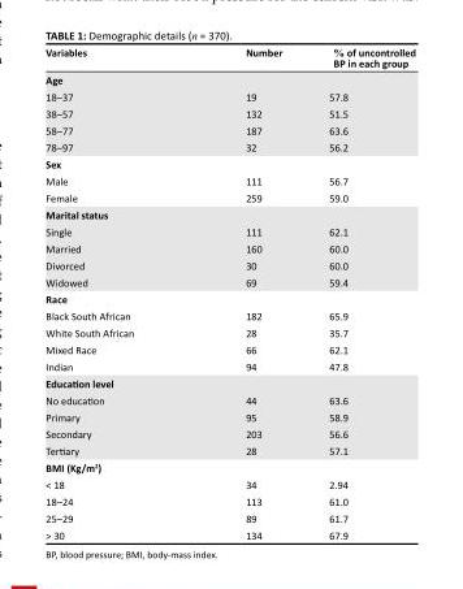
<table><thead><tr><td>Variables</td><td>Number</td><td>% of uncontrolled BP in each group</td></tr></thead><tbody><tr><td colspan="3">Age</td></tr><tr><td>18–37</td><td>19</td><td>57.8</td></tr><tr><td>38–57</td><td>132</td><td>51.5</td></tr><tr><td>58–77</td><td>187</td><td>63.6</td></tr><tr><td>78–97</td><td>32</td><td>56.2</td></tr><tr><td colspan="3">Sex</td></tr><tr><td>Male</td><td>111</td><td>56.7</td></tr><tr><td>Female</td><td>259</td><td>59.0</td></tr><tr><td colspan="3">Marital status</td></tr><tr><td>Single</td><td>111</td><td>62.1</td></tr><tr><td>Married</td><td>160</td><td>60.0</td></tr><tr><td>Divorced</td><td>30</td><td>60.0</td></tr><tr><td>Widowed</td><td>69</td><td>59.4</td></tr><tr><td colspan="3">Race</td></tr><tr><td>Black South African</td><td>182</td><td>65.9</td></tr><tr><td>White South African</td><td>28</td><td>35.7</td></tr><tr><td>Mixed Race</td><td>66</td><td>62.1</td></tr><tr><td>Indian</td><td>94</td><td>47.8</td></tr><tr><td colspan="3">Education level</td></tr><tr><td>No education</td><td>44</td><td>63.6</td></tr><tr><td>Primary</td><td>95</td><td>58.9</td></tr><tr><td>Secondary</td><td>203</td><td>56.6</td></tr><tr><td>Tertiary</td><td>28</td><td>57.1</td></tr><tr><td colspan="3">BMI (Kg/m<sup>2</sup>)</td></tr><tr><td>&lt; 18</td><td>34</td><td>2.94</td></tr><tr><td>18–24</td><td>113</td><td>61.0</td></tr><tr><td>25–29</td><td>89</td><td>61.7</td></tr><tr><td>&gt; 30</td><td>134</td><td>67.9</td></tr></tbody></table>